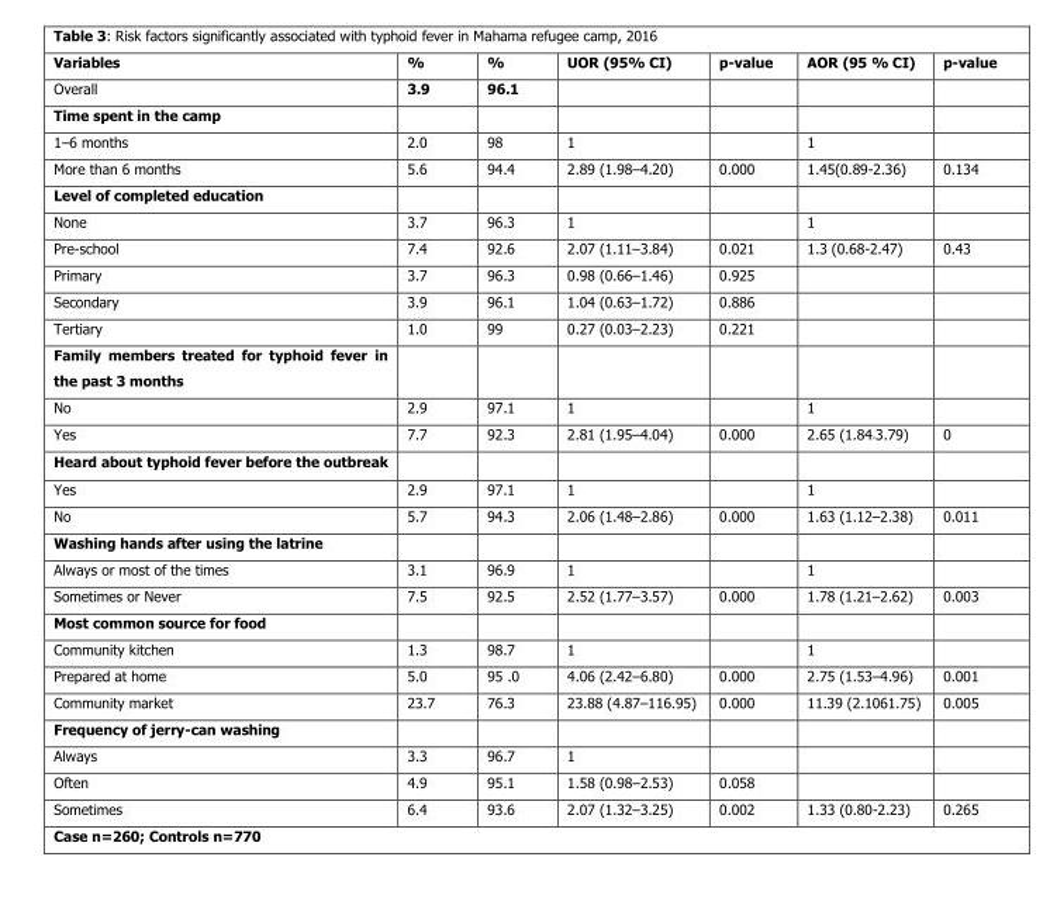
<table><thead><tr><td>Variables</td><td>%</td><td>%</td><td>UOR (95% CI)</td><td>p-value</td><td>AOR (95 % CI)</td><td>p-value</td></tr></thead><tbody><tr><td>Overall</td><td>3.9</td><td>96.1</td><td></td><td></td><td></td><td></td></tr><tr><td colspan="7">Time spent in the camp</td></tr><tr><td>1–6 months</td><td>2.0</td><td>98</td><td>1</td><td></td><td>1</td><td></td></tr><tr><td>More than 6 months</td><td>5.6</td><td>94.4</td><td>2.89 (1.98–4.20)</td><td>0.000</td><td>1.45(0.89-2.36)</td><td>0.134</td></tr><tr><td colspan="7">Level of completed education</td></tr><tr><td>None</td><td>3.7</td><td>96.3</td><td>1</td><td></td><td>1</td><td></td></tr><tr><td>Pre-school</td><td>7.4</td><td>92.6</td><td>2.07 (1.11–3.84)</td><td>0.021</td><td>1.3 (0.68-2.47)</td><td>0.43</td></tr><tr><td>Primary</td><td>3.7</td><td>96.3</td><td>0.98 (0.66–1.46)</td><td>0.925</td><td></td><td></td></tr><tr><td>Secondary</td><td>3.9</td><td>96.1</td><td>1.04 (0.63–1.72)</td><td>0.886</td><td></td><td></td></tr><tr><td>Tertiary</td><td>1.0</td><td>99</td><td>0.27 (0.03–2.23)</td><td>0.221</td><td></td><td></td></tr><tr><td colspan="7">Family members treated for typhoid fever in the past 3 months</td></tr><tr><td>No</td><td>2.9</td><td>97.1</td><td>1</td><td></td><td>1</td><td></td></tr><tr><td>Yes</td><td>7.7</td><td>92.3</td><td>2.81 (1.95–4.04)</td><td>0.000</td><td>2.65 (1.84<sub>-</sub>3.79)</td><td>0</td></tr><tr><td colspan="7">Heard about typhoid fever before the outbreak</td></tr><tr><td>Yes</td><td>2.9</td><td>97.1</td><td>1</td><td></td><td>1</td><td></td></tr><tr><td>No</td><td>5.7</td><td>94.3</td><td>2.06 (1.48–2.86)</td><td>0.000</td><td>1.63 (1.12–2.38)</td><td>0.011</td></tr><tr><td colspan="7">Washing hands after using the latrine</td></tr><tr><td>Always or most of the times</td><td>3.1</td><td>96.9</td><td>1</td><td></td><td>1</td><td></td></tr><tr><td>Sometimes or Never</td><td>7.5</td><td>92.5</td><td>2.52 (1.77–3.57)</td><td>0.000</td><td>1.78 (1.21–2.62)</td><td>0.003</td></tr><tr><td colspan="7">Most common source for food</td></tr><tr><td>Community kitchen</td><td>1.3</td><td>98.7</td><td>1</td><td></td><td>1</td><td></td></tr><tr><td>Prepared at home</td><td>5.0</td><td>95 .0</td><td>4.06 (2.42–6.80)</td><td>0.000</td><td>2.75 (1.53–4.96)</td><td>0.001</td></tr><tr><td>Community market</td><td>23.7</td><td>76.3</td><td>23.88 (4.87–116.95)</td><td>0.000</td><td>11.39 (2.1061.75)</td><td>0.005</td></tr><tr><td colspan="7">Frequency of jerry-can washing</td></tr><tr><td>Always</td><td>3.3</td><td>96.7</td><td>1</td><td></td><td></td><td></td></tr><tr><td>Often</td><td>4.9</td><td>95.1</td><td>1.58 (0.98–2.53)</td><td>0.058</td><td></td><td></td></tr><tr><td>Sometimes</td><td>6.4</td><td>93.6</td><td>2.07 (1.32–3.25)</td><td>0.002</td><td>1.33 (0.80-2.23)</td><td>0.265</td></tr><tr><td colspan="7">Case n=260; Controls n=770</td></tr></tbody></table>